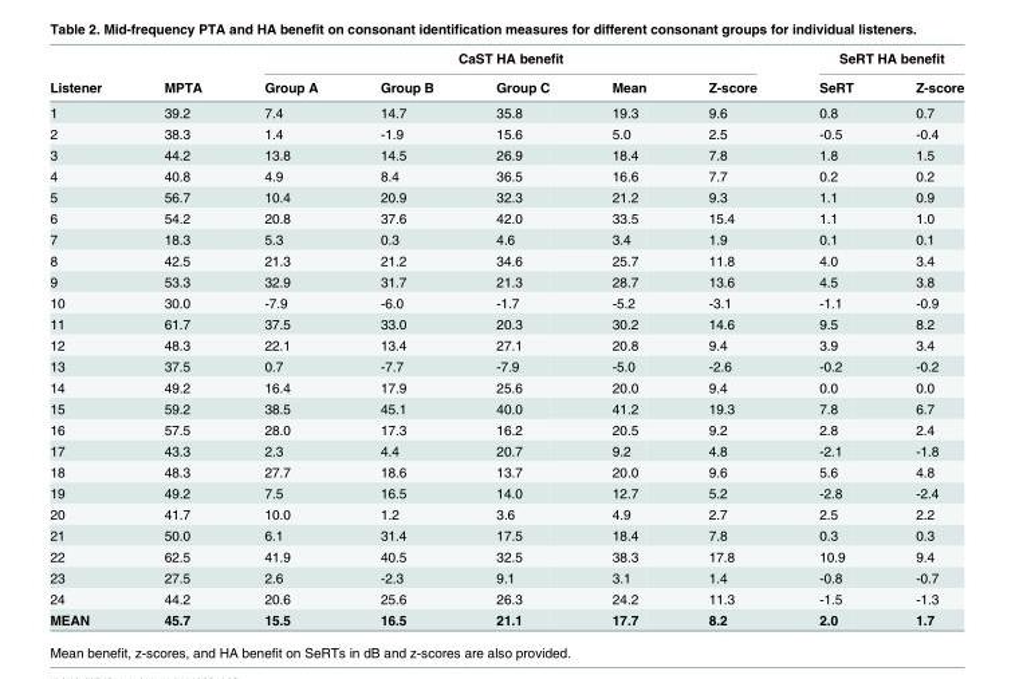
<table><thead><tr><td rowspan="2">Listener</td><td rowspan="2">MPTA</td><td colspan="5">CaST HA benefit</td><td colspan="2">SeRT HA benefit</td></tr><tr><td>Group A</td><td>Group B</td><td>Group C</td><td>Mean</td><td>Z-score</td><td>SeRT</td><td>Z-score</td></tr></thead><tbody><tr><td>1</td><td>39.2</td><td>7.4</td><td>14.7</td><td>35.8</td><td>19.3</td><td>9.6</td><td>0.8</td><td>0.7</td></tr><tr><td>2</td><td>38.3</td><td>1.4</td><td>-1.9</td><td>15.6</td><td>5.0</td><td>2.5</td><td>-0.5</td><td>-0.4</td></tr><tr><td>3</td><td>44.2</td><td>13.8</td><td>14.5</td><td>26.9</td><td>18.4</td><td>7.8</td><td>1.8</td><td>1.5</td></tr><tr><td>4</td><td>40.8</td><td>4.9</td><td>8.4</td><td>36.5</td><td>16.6</td><td>7.7</td><td>0.2</td><td>0.2</td></tr><tr><td>5</td><td>56.7</td><td>10.4</td><td>20.9</td><td>32.3</td><td>21.2</td><td>9.3</td><td>1.1</td><td>0.9</td></tr><tr><td>6</td><td>54.2</td><td>20.8</td><td>37.6</td><td>42.0</td><td>33.5</td><td>15.4</td><td>1.1</td><td>1.0</td></tr><tr><td>7</td><td>18.3</td><td>5.3</td><td>0.3</td><td>4.6</td><td>3.4</td><td>1.9</td><td>0.1</td><td>0.1</td></tr><tr><td>8</td><td>42.5</td><td>21.3</td><td>21.2</td><td>34.6</td><td>25.7</td><td>11.8</td><td>4.0</td><td>3.4</td></tr><tr><td>9</td><td>53.3</td><td>32.9</td><td>31.7</td><td>21.3</td><td>28.7</td><td>13.6</td><td>4.5</td><td>3.8</td></tr><tr><td>10</td><td>30.0</td><td>-7.9</td><td>-6.0</td><td>-1.7</td><td>-5.2</td><td>-3.1</td><td>-1.1</td><td>-0.9</td></tr><tr><td>11</td><td>61.7</td><td>37.5</td><td>33.0</td><td>20.3</td><td>30.2</td><td>14.6</td><td>9.5</td><td>8.2</td></tr><tr><td>12</td><td>48.3</td><td>22.1</td><td>13.4</td><td>27.1</td><td>20.8</td><td>9.4</td><td>3.9</td><td>3.4</td></tr><tr><td>13</td><td>37.5</td><td>0.7</td><td>-7.7</td><td>-7.9</td><td>-5.0</td><td>-2.6</td><td>-0.2</td><td>-0.2</td></tr><tr><td>14</td><td>49.2</td><td>16.4</td><td>17.9</td><td>25.6</td><td>20.0</td><td>9.4</td><td>0.0</td><td>0.0</td></tr><tr><td>15</td><td>59.2</td><td>38.5</td><td>45.1</td><td>40.0</td><td>41.2</td><td>19.3</td><td>7.8</td><td>6.7</td></tr><tr><td>16</td><td>57.5</td><td>28.0</td><td>17.3</td><td>16.2</td><td>20.5</td><td>9.2</td><td>2.8</td><td>2.4</td></tr><tr><td>17</td><td>43.3</td><td>2.3</td><td>4.4</td><td>20.7</td><td>9.2</td><td>4.8</td><td>-2.1</td><td>-1.8</td></tr><tr><td>18</td><td>48.3</td><td>27.7</td><td>18.6</td><td>13.7</td><td>20.0</td><td>9.6</td><td>5.6</td><td>4.8</td></tr><tr><td>19</td><td>49.2</td><td>7.5</td><td>16.5</td><td>14.0</td><td>12.7</td><td>5.2</td><td>-2.8</td><td>-2.4</td></tr><tr><td>20</td><td>41.7</td><td>10.0</td><td>1.2</td><td>3.6</td><td>4.9</td><td>2.7</td><td>2.5</td><td>2.2</td></tr><tr><td>21</td><td>50.0</td><td>6.1</td><td>31.4</td><td>17.5</td><td>18.4</td><td>7.8</td><td>0.3</td><td>0.3</td></tr><tr><td>22</td><td>62.5</td><td>41.9</td><td>40.5</td><td>32.5</td><td>38.3</td><td>17.8</td><td>10.9</td><td>9.4</td></tr><tr><td>23</td><td>27.5</td><td>2.6</td><td>-2.3</td><td>9.1</td><td>3.1</td><td>1.4</td><td>-0.8</td><td>-0.7</td></tr><tr><td>24</td><td>44.2</td><td>20.6</td><td>25.6</td><td>26.3</td><td>24.2</td><td>11.3</td><td>-1.5</td><td>-1.3</td></tr><tr><td>MEAN</td><td>45.7</td><td>15.5</td><td>16.5</td><td>21.1</td><td>17.7</td><td>8.2</td><td>2.0</td><td>1.7</td></tr></tbody></table>